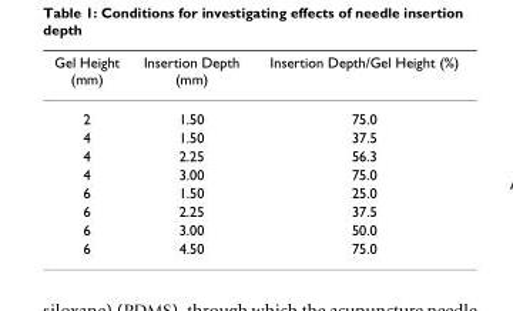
<table><thead><tr><td>Gel Height (mm)</td><td>Insertion Depth (mm)</td><td>Insertion Depth/Gel Height (%)</td></tr></thead><tbody><tr><td>2</td><td>1.50</td><td>75.0</td></tr><tr><td>4</td><td>1.50</td><td>37.5</td></tr><tr><td>4</td><td>2.25</td><td>56.3</td></tr><tr><td>4</td><td>3.00</td><td>75.0</td></tr><tr><td>6</td><td>1.50</td><td>25.0</td></tr><tr><td>6</td><td>2.25</td><td>37.5</td></tr><tr><td>6</td><td>3.00</td><td>50.0</td></tr><tr><td>6</td><td>4.50</td><td>75.0</td></tr></tbody></table>